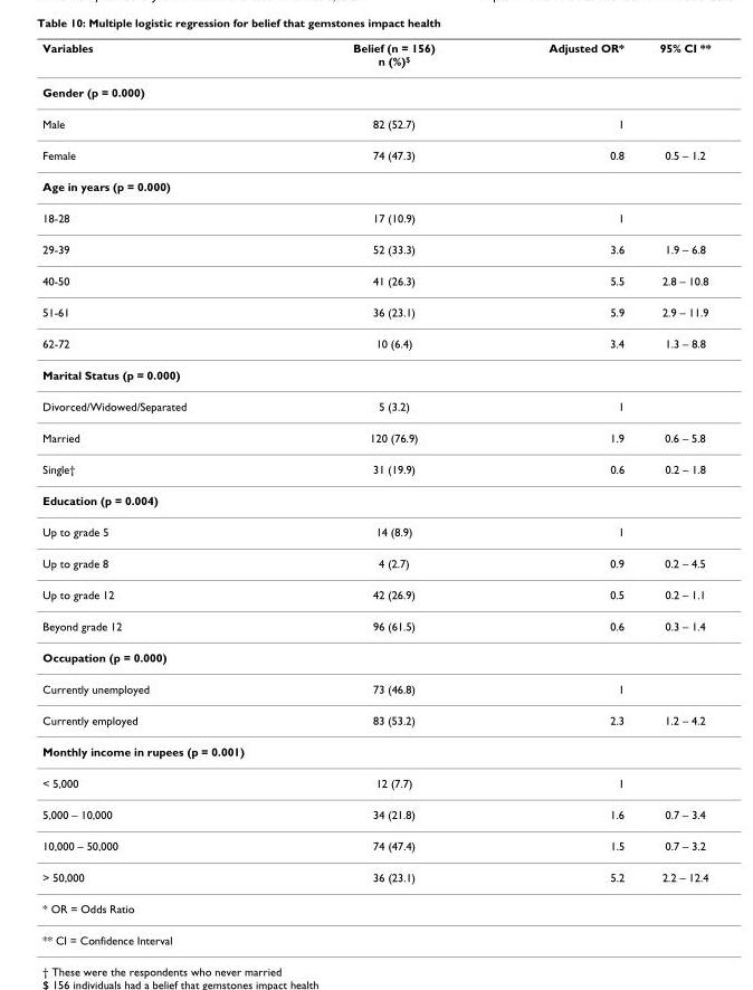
<table><thead><tr><td>Variables</td><td>Belief (n = 156) n (%)<sup>$</sup></td><td>Adjusted OR*</td><td>95% CI **</td></tr></thead><tbody><tr><td colspan="4">Gender (p = 0.000)</td></tr><tr><td>Male</td><td>82 (52.7)</td><td>1</td><td></td></tr><tr><td>Female</td><td>74 (47.3)</td><td>0.8</td><td>0.5 – 1.2</td></tr><tr><td colspan="4">Age in years (p = 0.000)</td></tr><tr><td>18-28</td><td>17 (10.9)</td><td>1</td><td></td></tr><tr><td>29-39</td><td>52 (33.3)</td><td>3.6</td><td>1.9 – 6.8</td></tr><tr><td>40-50</td><td>41 (26.3)</td><td>5.5</td><td>2.8 – 10.8</td></tr><tr><td>51-61</td><td>36 (23.1)</td><td>5.9</td><td>2.9 – 11.9</td></tr><tr><td>62-72</td><td>10 (6.4)</td><td>3.4</td><td>1.3 – 8.8</td></tr><tr><td colspan="4">Marital Status (p = 0.000)</td></tr><tr><td>Divorced/Widowed/Separated</td><td>5 (3.2)</td><td>1</td><td></td></tr><tr><td>Married</td><td>120 (76.9)</td><td>1.9</td><td>0.6 – 5.8</td></tr><tr><td>Single†</td><td>31 (19.9)</td><td>0.6</td><td>0.2 – 1.8</td></tr><tr><td colspan="4">Education (p = 0.004)</td></tr><tr><td>Up to grade 5</td><td>14 (8.9)</td><td>1</td><td></td></tr><tr><td>Up to grade 8</td><td>4 (2.7)</td><td>0.9</td><td>0.2 – 4.5</td></tr><tr><td>Up to grade 12</td><td>42 (26.9)</td><td>0.5</td><td>0.2 – 1.1</td></tr><tr><td>Beyond grade 12</td><td>96 (61.5)</td><td>0.6</td><td>0.3 – 1.4</td></tr><tr><td colspan="4">Occupation (p = 0.000)</td></tr><tr><td>Currently unemployed</td><td>73 (46.8)</td><td>1</td><td></td></tr><tr><td>Currently employed</td><td>83 (53.2)</td><td>2.3</td><td>1.2 – 4.2</td></tr><tr><td colspan="4">Monthly income in rupees (p = 0.001)</td></tr><tr><td>&lt; 5,000</td><td>12 (7.7)</td><td>1</td><td></td></tr><tr><td>5,000 – 10,000</td><td>34 (21.8)</td><td>1.6</td><td>0.7 – 3.4</td></tr><tr><td>10,000 – 50,000</td><td>74 (47.4)</td><td>1.5</td><td>0.7 – 3.2</td></tr><tr><td>&gt; 50,000</td><td>36 (23.1)</td><td>5.2</td><td>2.2 – 12.4</td></tr><tr><td colspan="4">* OR = Odds Ratio</td></tr><tr><td colspan="4">** CI = Confidence Interval</td></tr></tbody></table>